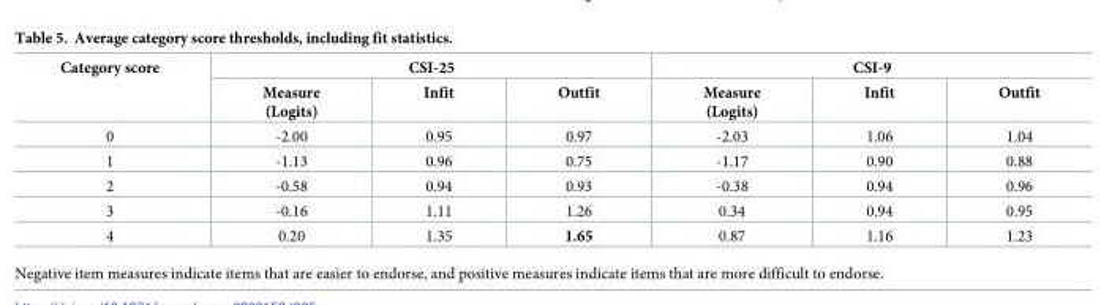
<table><thead><tr><td rowspan="2">Category score</td><td colspan="3">CSI-25</td><td colspan="3">CSI-9</td></tr><tr><td>Measure (Logits)</td><td>Infit</td><td>Outfit</td><td>Measure (Logits)</td><td>Infit</td><td>Outfit</td></tr></thead><tbody><tr><td>0</td><td>-2.00</td><td>0.95</td><td>0.97</td><td>-2.03</td><td>1.06</td><td>1.04</td></tr><tr><td>1</td><td>-1.13</td><td>0.96</td><td>0.75</td><td>-1.17</td><td>0.90</td><td>0.88</td></tr><tr><td>2</td><td>-0.58</td><td>0.94</td><td>0.93</td><td>-0.38</td><td>0.94</td><td>0.96</td></tr><tr><td>3</td><td>-0.16</td><td>1.11</td><td>1.26</td><td>0.34</td><td>0.94</td><td>0.95</td></tr><tr><td>4</td><td>0.20</td><td>1.35</td><td>1.65</td><td>0.87</td><td>1.16</td><td>1.23</td></tr></tbody></table>